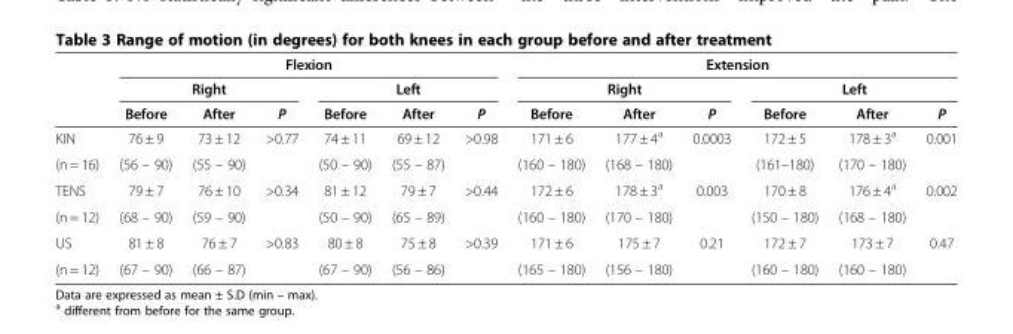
<table><thead><tr><td rowspan="3"></td><td colspan="6">Flexion</td><td colspan="6">Extension</td></tr><tr><td colspan="3">Right</td><td colspan="3">Left</td><td colspan="3">Right</td><td colspan="3">Left</td></tr><tr><td>Before</td><td>After</td><td>P</td><td>Before</td><td>After</td><td>P</td><td>Before</td><td>After</td><td>P</td><td>Before</td><td>After</td><td>P</td></tr></thead><tbody><tr><td>KIN</td><td>76 ± 9</td><td>73 ± 12</td><td>&gt;0.77</td><td>74 ± 11</td><td>69 ± 12</td><td>&gt;0.98</td><td>171 ± 6</td><td>177 ± 4<sup>a</sup></td><td>0.0003</td><td>172 ± 5</td><td>178 ± 3<sup>a</sup></td><td>0.001</td></tr><tr><td>(n = 16)</td><td>(56 – 90)</td><td>(55 – 90)</td><td></td><td>(50 – 90)</td><td>(55 – 87)</td><td></td><td>(160 – 180)</td><td>(168 – 180)</td><td></td><td>(161–180)</td><td>(170 – 180)</td><td></td></tr><tr><td>TENS</td><td>79 ± 7</td><td>76 ± 10</td><td>&gt;0.34</td><td>81 ± 12</td><td>79 ± 7</td><td>&gt;0.44</td><td>172 ± 6</td><td>178 ± 3<sup>a</sup></td><td>0.003</td><td>170 ± 8</td><td>176 ± 4<sup>a</sup></td><td>0.002</td></tr><tr><td>(n = 12)</td><td>(68 – 90)</td><td>(59 – 90)</td><td></td><td>(50 – 90)</td><td>(65 – 89)</td><td></td><td>(160 – 180)</td><td>(170 – 180)</td><td></td><td>(150 – 180)</td><td>(168 – 180)</td><td></td></tr><tr><td>US</td><td>81 ± 8</td><td>76 ± 7</td><td>&gt;0.83</td><td>80 ± 8</td><td>75 ± 8</td><td>&gt;0.39</td><td>171 ± 6</td><td>175 ± 7</td><td>0.21</td><td>172 ± 7</td><td>173 ± 7</td><td>0.47</td></tr><tr><td>(n = 12)</td><td>(67 – 90)</td><td>(66 – 87)</td><td></td><td>(67 – 90)</td><td>(56 – 86)</td><td></td><td>(165 – 180)</td><td>(156 – 180)</td><td></td><td>(160 – 180)</td><td>(160 – 180)</td><td></td></tr></tbody></table>